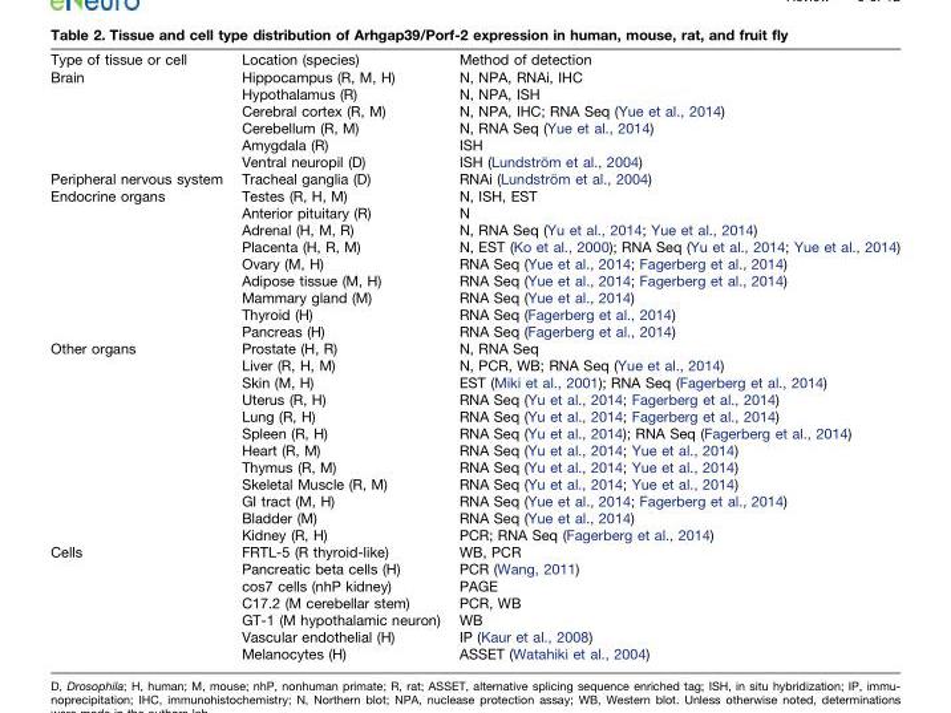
<table><tbody><tr><td>Type of tissue or cell</td><td>Location (species)</td><td>Method of detection</td></tr><tr><td rowspan="6">Brain</td><td>Hippocampus (R, M, H)</td><td>N, NPA, RNAi, IHC</td></tr><tr><td>Hypothalamus (R)</td><td>N, NPA, ISH</td></tr><tr><td>Cerebral cortex (R, M)</td><td>N, NPA, IHC; RNA Seq (Yue et al., 2014)</td></tr><tr><td>Cerebellum (R, M)</td><td>N, RNA Seq (Yue et al., 2014)</td></tr><tr><td>Amygdala (R)</td><td>ISH</td></tr><tr><td>Ventral neuropil (D)</td><td>ISH (Lundström et al., 2004)</td></tr><tr><td>Peripheral nervous system</td><td>Tracheal ganglia (D)</td><td>RNAi (Lundström et al., 2004)</td></tr><tr><td rowspan="9">Endocrine organs</td><td>Testes (R, H, M)</td><td>N, ISH, EST</td></tr><tr><td>Anterior pituitary (R)</td><td>N</td></tr><tr><td>Adrenal (H, M, R)</td><td>N, RNA Seq (Yu et al., 2014; Yue et al., 2014)</td></tr><tr><td>Placenta (H, R, M)</td><td>N, EST (Ko et al., 2000); RNA Seq (Yu et al., 2014; Yue et al., 2014)</td></tr><tr><td>Ovary (M, H)</td><td>RNA Seq (Yue et al., 2014; Fagerberg et al., 2014)</td></tr><tr><td>Adipose tissue (M, H)</td><td>RNA Seq (Yue et al., 2014; Fagerberg et al., 2014)</td></tr><tr><td>Mammary gland (M)</td><td>RNA Seq (Yue et al., 2014)</td></tr><tr><td>Thyroid (H)</td><td>RNA Seq (Fagerberg et al., 2014)</td></tr><tr><td>Pancreas (H)</td><td>RNA Seq (Fagerberg et al., 2014)</td></tr><tr><td rowspan="12">Other organs</td><td>Prostate (H, R)</td><td>N, RNA Seq</td></tr><tr><td>Liver (R, H, M)</td><td>N, PCR, WB; RNA Seq (Yue et al., 2014)</td></tr><tr><td>Skin (M, H)</td><td>EST (Miki et al., 2001); RNA Seq (Fagerberg et al., 2014)</td></tr><tr><td>Uterus (R, H)</td><td>RNA Seq (Yu et al., 2014; Fagerberg et al., 2014)</td></tr><tr><td>Lung (R, H)</td><td>RNA Seq (Yu et al., 2014; Fagerberg et al., 2014)</td></tr><tr><td>Spleen (R, H)</td><td>RNA Seq (Yu et al., 2014); RNA Seq (Fagerberg et al., 2014)</td></tr><tr><td>Heart (R, M)</td><td>RNA Seq (Yu et al., 2014; Yue et al., 2014)</td></tr><tr><td>Thymus (R, M)</td><td>RNA Seq (Yu et al., 2014; Yue et al., 2014)</td></tr><tr><td>Skeletal Muscle (R, M)</td><td>RNA Seq (Yu et al., 2014; Yue et al., 2014)</td></tr><tr><td>GI tract (M, H)</td><td>RNA Seq (Yue et al., 2014; Fagerberg et al., 2014)</td></tr><tr><td>Bladder (M)</td><td>RNA Seq (Yue et al., 2014)</td></tr><tr><td>Kidney (R, H)</td><td>PCR; RNA Seq (Fagerberg et al., 2014)</td></tr><tr><td rowspan="7">Cells</td><td>FRTL-5 (R thyroid-like)</td><td>WB, PCR</td></tr><tr><td>Pancreatic beta cells (H)</td><td>PCR (Wang, 2011)</td></tr><tr><td>cos7 cells (nhP kidney)</td><td>PAGE</td></tr><tr><td>C17.2 (M cerebellar stem)</td><td>PCR, WB</td></tr><tr><td>GT-1 (M hypothalamic neuron)</td><td>WB</td></tr><tr><td>Vascular endothelial (H)</td><td>IP (Kaur et al., 2008)</td></tr><tr><td>Melanocytes (H)</td><td>ASSET (Watahiki et al., 2004)</td></tr></tbody></table>